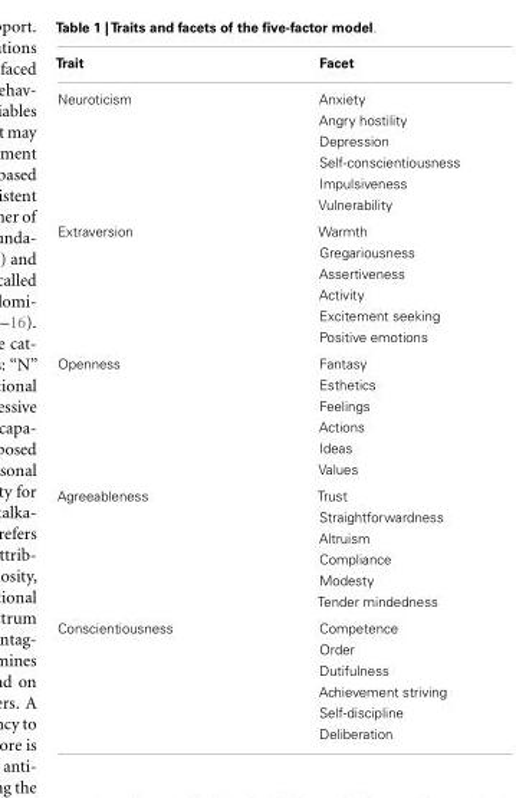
<table><thead><tr><td>Trait</td><td>Facet</td></tr></thead><tbody><tr><td rowspan="6">Neuroticism</td><td>Anxiety</td></tr><tr><td>Angry hostility</td></tr><tr><td>Depression</td></tr><tr><td>Self-conscientiousness</td></tr><tr><td>Impulsiveness</td></tr><tr><td>Vulnerability</td></tr><tr><td rowspan="6">Extraversion</td><td>Warmth</td></tr><tr><td>Gregariousness</td></tr><tr><td>Assertiveness</td></tr><tr><td>Activity</td></tr><tr><td>Excitement seeking</td></tr><tr><td>Positive emotions</td></tr><tr><td rowspan="6">Openness</td><td>Fantasy</td></tr><tr><td>Esthetics</td></tr><tr><td>Feelings</td></tr><tr><td>Actions</td></tr><tr><td>Ideas</td></tr><tr><td>Values</td></tr><tr><td rowspan="6">Agreeableness</td><td>Trust</td></tr><tr><td>Straightforwardness</td></tr><tr><td>Altruism</td></tr><tr><td>Compliance</td></tr><tr><td>Modesty</td></tr><tr><td>Tender mindedness</td></tr><tr><td rowspan="6">Conscientiousness</td><td>Competence</td></tr><tr><td>Order</td></tr><tr><td>Dutifulness</td></tr><tr><td>Achievement striving</td></tr><tr><td>Self-discipline</td></tr><tr><td>Deliberation</td></tr></tbody></table>